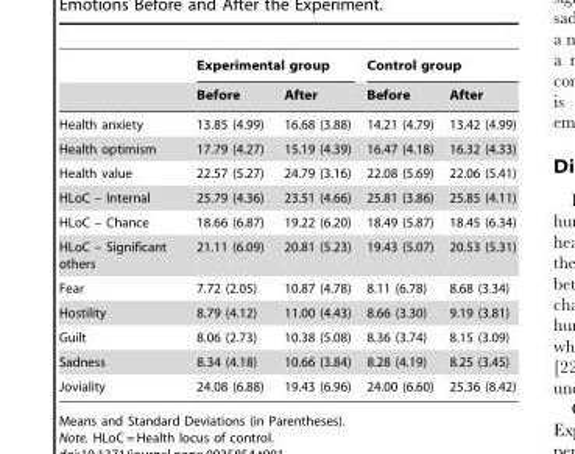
<table><thead><tr><td rowspan="2"></td><td colspan="2">Experimental group</td><td colspan="2">Control group</td></tr><tr><td>Before</td><td>After</td><td>Before</td><td>After</td></tr></thead><tbody><tr><td>Health anxiety</td><td>13.85 (4.99)</td><td>16.68 (3.88)</td><td>14.21 (4.79)</td><td>13.42 (4.99)</td></tr><tr><td>Health optimism</td><td>17.79 (4.27)</td><td>15.19 (4.39)</td><td>16.47 (4.18)</td><td>16.32 (4.33)</td></tr><tr><td>Health value</td><td>22.57 (5.27)</td><td>24.79 (3.16)</td><td>22.08 (5.69)</td><td>22.06 (5.41)</td></tr><tr><td>HLoC – Internal</td><td>25.79 (4.36)</td><td>23.51 (4.66)</td><td>25.81 (3.86)</td><td>25.85 (4.11)</td></tr><tr><td>HLoC – Chance</td><td>18.66 (6.87)</td><td>19.22 (6.20)</td><td>18.49 (5.87)</td><td>18.45 (6.34)</td></tr><tr><td>HLoC – Significant others</td><td>21.11 (6.09)</td><td>20.81 (5.23)</td><td>19.43 (5.07)</td><td>20.53 (5.31)</td></tr><tr><td>Fear</td><td>7.72 (2.05)</td><td>10.87 (4.78)</td><td>8.11 (6.78)</td><td>8.68 (3.34)</td></tr><tr><td>Hostility</td><td>8.79 (4.12)</td><td>11.00 (4.43)</td><td>8.66 (3.30)</td><td>9.19 (3.81)</td></tr><tr><td>Guilt</td><td>8.06 (2.73)</td><td>10.38 (5.08)</td><td>8.36 (3.74)</td><td>8.15 (3.09)</td></tr><tr><td>Sadness</td><td>8.34 (4.18)</td><td>10.66 (3.84)</td><td>8.28 (4.19)</td><td>8.25 (3.45)</td></tr><tr><td>Joviality</td><td>24.08 (6.88)</td><td>19.43 (6.96)</td><td>24.00 (6.60)</td><td>25.36 (8.42)</td></tr></tbody></table>